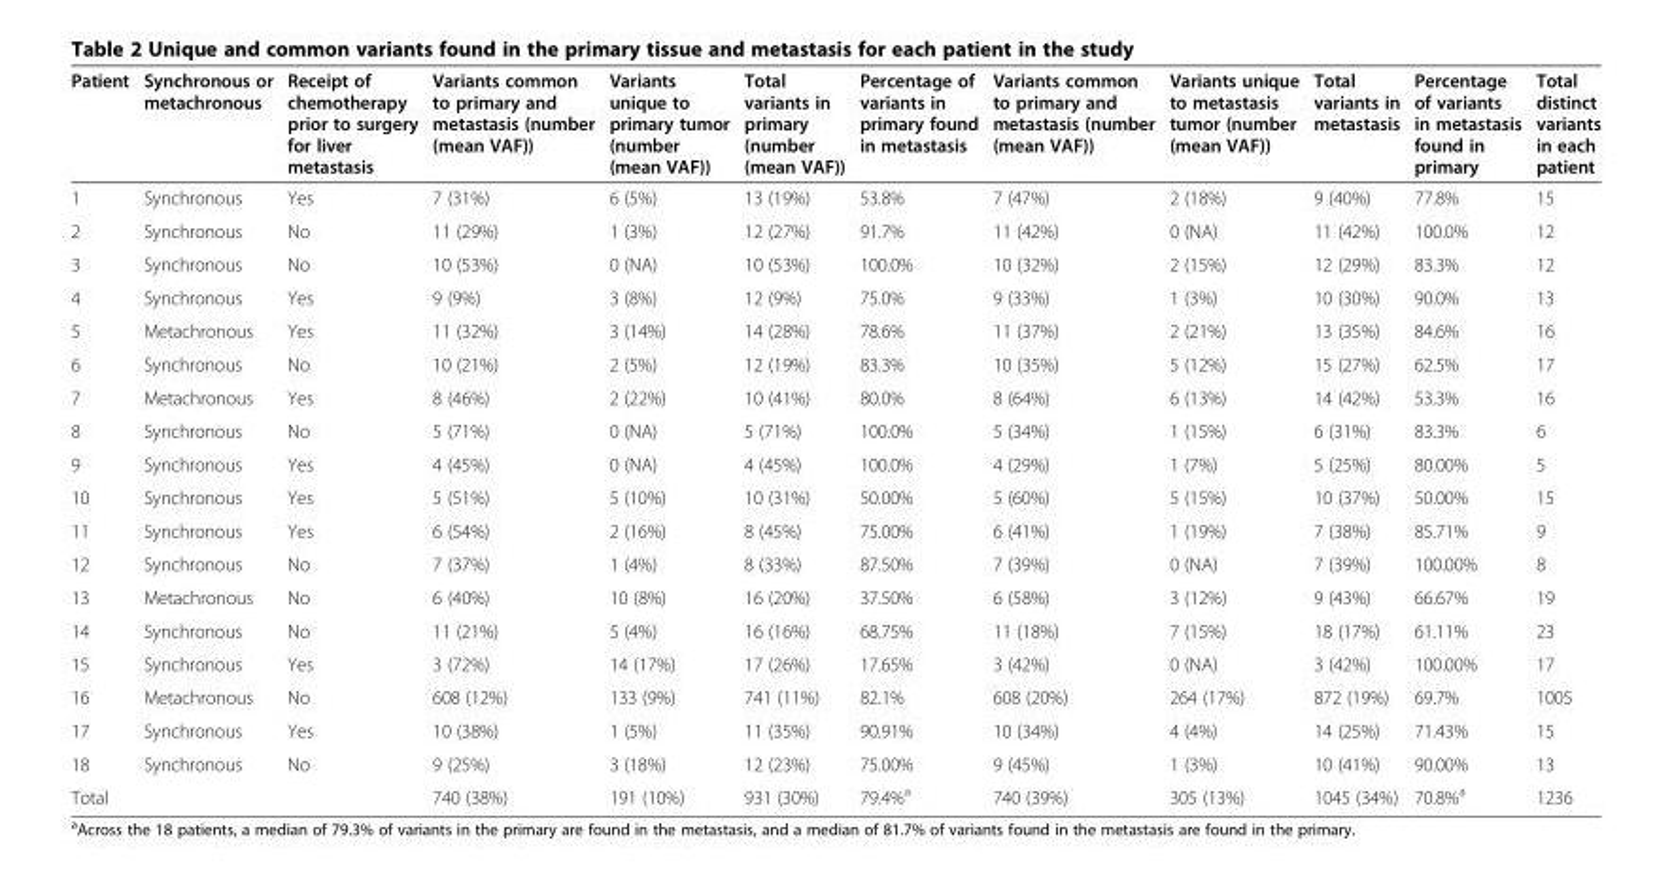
<table><thead><tr><td>Patient</td><td>Synchronous or metachronous</td><td>Receipt of chemotherapy prior to surgery for liver metastasis</td><td>Variants common to primary and metastasis (number (mean VAF))</td><td>Variants unique to primary tumor (number (mean VAF))</td><td>Total variants in primary (number (mean VAF))</td><td>Percentage of variants in primary found in metastasis</td><td>Variants common to primary and metastasis (number (mean VAF))</td><td>Variants unique to metastasis tumor (number (mean VAF))</td><td>Total variants in metastasis</td><td>Percentage of variants in metastasis found in primary</td><td>Total distinct variants in each patient</td></tr></thead><tbody><tr><td>1</td><td>Synchronous</td><td>Yes</td><td>7 (31%)</td><td>6 (5%)</td><td>13 (19%)</td><td>53.8%</td><td>7 (47%)</td><td>2 (18%)</td><td>9 (40%)</td><td>77.8%</td><td>15</td></tr><tr><td>2</td><td>Synchronous</td><td>No</td><td>11 (29%)</td><td>1 (3%)</td><td>12 (27%)</td><td>91.7%</td><td>11 (42%)</td><td>0 (NA)</td><td>11 (42%)</td><td>100.0%</td><td>12</td></tr><tr><td>3</td><td>Synchronous</td><td>No</td><td>10 (53%)</td><td>0 (NA)</td><td>10 (53%)</td><td>100.0%</td><td>10 (32%)</td><td>2 (15%)</td><td>12 (29%)</td><td>83.3%</td><td>12</td></tr><tr><td>4</td><td>Synchronous</td><td>Yes</td><td>9 (9%)</td><td>3 (8%)</td><td>12 (9%)</td><td>75.0%</td><td>9 (33%)</td><td>1 (3%)</td><td>10 (30%)</td><td>90.0%</td><td>13</td></tr><tr><td>5</td><td>Metachronous</td><td>Yes</td><td>11 (32%)</td><td>3 (14%)</td><td>14 (28%)</td><td>78.6%</td><td>11 (37%)</td><td>2 (21%)</td><td>13 (35%)</td><td>84.6%</td><td>16</td></tr><tr><td>6</td><td>Synchronous</td><td>No</td><td>10 (21%)</td><td>2 (5%)</td><td>12 (19%)</td><td>83.3%</td><td>10 (35%)</td><td>5 (12%)</td><td>15 (27%)</td><td>62.5%</td><td>17</td></tr><tr><td>7</td><td>Metachronous</td><td>Yes</td><td>8 (46%)</td><td>2 (22%)</td><td>10 (41%)</td><td>80.0%</td><td>8 (64%)</td><td>6 (13%)</td><td>14 (42%)</td><td>53.3%</td><td>16</td></tr><tr><td>8</td><td>Synchronous</td><td>No</td><td>5 (71%)</td><td>0 (NA)</td><td>5 (71%)</td><td>100.0%</td><td>5 (34%)</td><td>1 (15%)</td><td>6 (31%)</td><td>83.3%</td><td>6</td></tr><tr><td>9</td><td>Synchronous</td><td>Yes</td><td>4 (45%)</td><td>0 (NA)</td><td>4 (45%)</td><td>100.0%</td><td>4 (29%)</td><td>1 (7%)</td><td>5 (25%)</td><td>80.00%</td><td>5</td></tr><tr><td>10</td><td>Synchronous</td><td>Yes</td><td>5 (51%)</td><td>5 (10%)</td><td>10 (31%)</td><td>50.00%</td><td>5 (60%)</td><td>5 (15%)</td><td>10 (37%)</td><td>50.00%</td><td>15</td></tr><tr><td>11</td><td>Synchronous</td><td>Yes</td><td>6 (54%)</td><td>2 (16%)</td><td>8 (45%)</td><td>75.00%</td><td>6 (41%)</td><td>1 (19%)</td><td>7 (38%)</td><td>85.71%</td><td>9</td></tr><tr><td>12</td><td>Synchronous</td><td>No</td><td>7 (37%)</td><td>1 (4%)</td><td>8 (33%)</td><td>87.50%</td><td>7 (39%)</td><td>0 (NA)</td><td>7 (39%)</td><td>100.00%</td><td>8</td></tr><tr><td>13</td><td>Metachronous</td><td>No</td><td>6 (40%)</td><td>10 (8%)</td><td>16 (20%)</td><td>37.50%</td><td>6 (58%)</td><td>3 (12%)</td><td>9 (43%)</td><td>66.67%</td><td>19</td></tr><tr><td>14</td><td>Synchronous</td><td>No</td><td>11 (21%)</td><td>5 (4%)</td><td>16 (16%)</td><td>68.75%</td><td>11 (18%)</td><td>7 (15%)</td><td>18 (17%)</td><td>61.11%</td><td>23</td></tr><tr><td>15</td><td>Synchronous</td><td>Yes</td><td>3 (72%)</td><td>14 (17%)</td><td>17 (26%)</td><td>17.65%</td><td>3 (42%)</td><td>0 (NA)</td><td>3 (42%)</td><td>100.00%</td><td>17</td></tr><tr><td>16</td><td>Metachronous</td><td>No</td><td>608 (12%)</td><td>133 (9%)</td><td>741 (11%)</td><td>82.1%</td><td>608 (20%)</td><td>264 (17%)</td><td>872 (19%)</td><td>69.7%</td><td>1005</td></tr><tr><td>17</td><td>Synchronous</td><td>Yes</td><td>10 (38%)</td><td>1 (5%)</td><td>11 (35%)</td><td>90.91%</td><td>10 (34%)</td><td>4 (4%)</td><td>14 (25%)</td><td>71.43%</td><td>15</td></tr><tr><td>18</td><td>Synchronous</td><td>No</td><td>9 (25%)</td><td>3 (18%)</td><td>12 (23%)</td><td>75.00%</td><td>9 (45%)</td><td>1 (3%)</td><td>10 (41%)</td><td>90.00%</td><td>13</td></tr><tr><td>Total</td><td></td><td></td><td>740 (38%)</td><td>191 (10%)</td><td>931 (30%)</td><td>79.4%<sup>a</sup></td><td>740 (39%)</td><td>305 (13%)</td><td>1045 (34%)</td><td>70.8%<sup>a</sup></td><td>1236</td></tr></tbody></table>